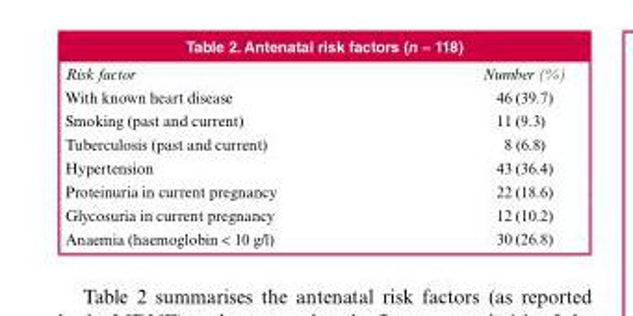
<table><thead><tr><td>Risk factor</td><td>Number (%)</td></tr></thead><tbody><tr><td>With known heart disease</td><td>46 (39.7)</td></tr><tr><td>Smoking (past and current)</td><td>11 (9.3)</td></tr><tr><td>Tuberculosis (past and current)</td><td>8 (6.8)</td></tr><tr><td>Hypertension</td><td>43 (36.4)</td></tr><tr><td>Proteinuria in current pregnancy</td><td>22 (18.6)</td></tr><tr><td>Glycosuria in current pregnancy</td><td>12 (10.2)</td></tr><tr><td>Anaemia (haemoglobin &lt; 10 g/l)</td><td>30 (26.8)</td></tr></tbody></table>